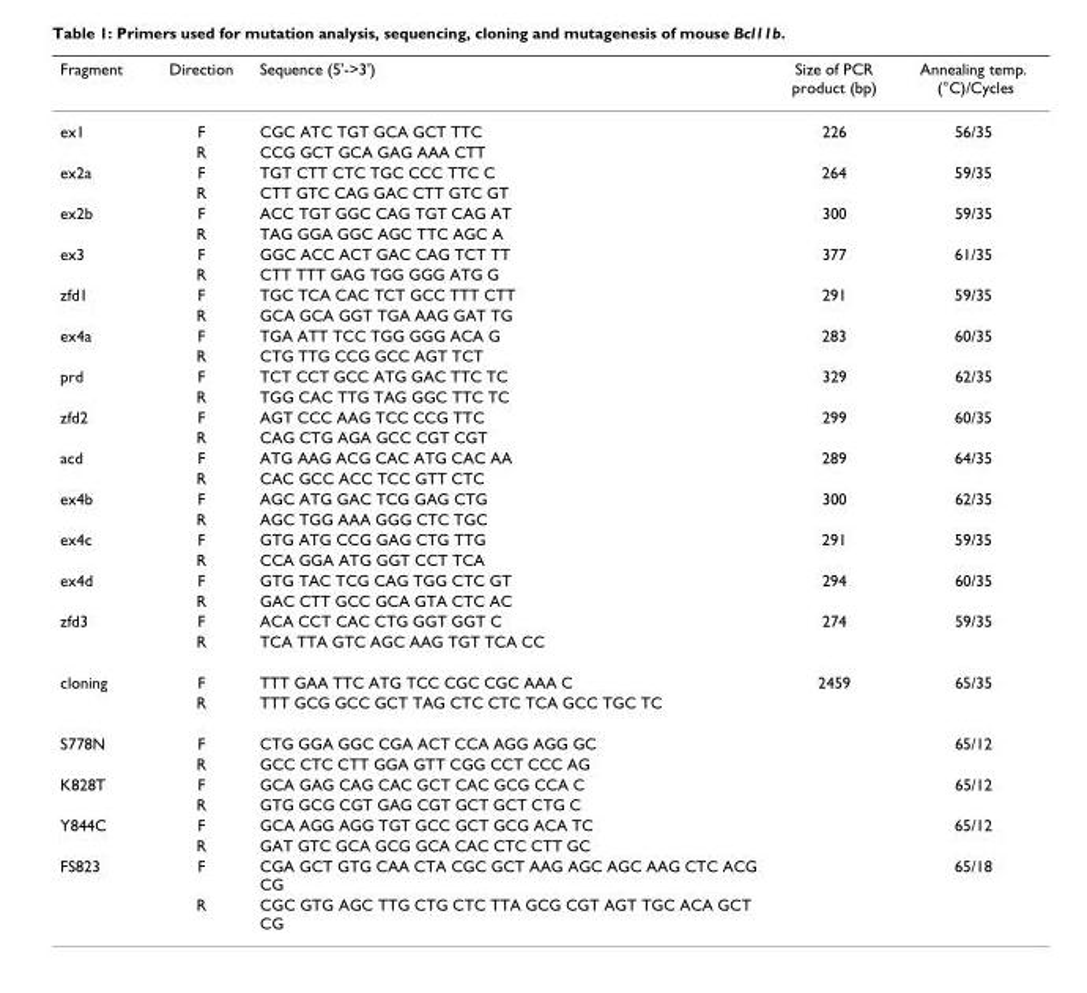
<table><thead><tr><td>Fragment</td><td>Direction</td><td>Sequence (5&#x27;-&gt;3&#x27;)</td><td>Size of PCR product (bp)</td><td>Annealing temp. (°C)/Cycles</td></tr></thead><tbody><tr><td rowspan="2">ex1</td><td>F</td><td>CGC ATC TGT GCA GCT TTC</td><td>226</td><td>56/35</td></tr><tr><td>R</td><td>CCG GCT GCA GAG AAA CTT</td><td></td><td></td></tr><tr><td rowspan="2">ex2a</td><td>F</td><td>TGT CTT CTC TGC CCC TTC C</td><td>264</td><td>59/35</td></tr><tr><td>R</td><td>CTT GTC CAG GAC CTT GTC GT</td><td></td><td></td></tr><tr><td rowspan="2">ex2b</td><td>F</td><td>ACC TGT GGC CAG TGT CAG AT</td><td>300</td><td>59/35</td></tr><tr><td>R</td><td>TAG GGA GGC AGC TTC AGC A</td><td></td><td></td></tr><tr><td rowspan="2">ex3</td><td>F</td><td>GGC ACC ACT GAC CAG TCT TT</td><td>377</td><td>61/35</td></tr><tr><td>R</td><td>CTT TTT GAG TGG GGG ATG G</td><td></td><td></td></tr><tr><td rowspan="2">zfd1</td><td>F</td><td>TGC TCA CAC TCT GCC TTT CTT</td><td>291</td><td>59/35</td></tr><tr><td>R</td><td>GCA GCA GGT TGA AAG GAT TG</td><td></td><td></td></tr><tr><td rowspan="2">ex4a</td><td>F</td><td>TGA ATT TCC TGG GGG ACA G</td><td>283</td><td>60/35</td></tr><tr><td>R</td><td>CTG TTG CCG GCC AGT TCT</td><td></td><td></td></tr><tr><td rowspan="2">prd</td><td>F</td><td>TCT CCT GCC ATG GAC TTC TC</td><td>329</td><td>62/35</td></tr><tr><td>R</td><td>TGG CAC TTG TAG GGC TTC TC</td><td></td><td></td></tr><tr><td rowspan="2">zfd2</td><td>F</td><td>AGT CCC AAG TCC CCG TTC</td><td>299</td><td>60/35</td></tr><tr><td>R</td><td>CAG CTG AGA GCC CGT CGT</td><td></td><td></td></tr><tr><td rowspan="2">acd</td><td>F</td><td>ATG AAG ACG CAC ATG CAC AA</td><td>289</td><td>64/35</td></tr><tr><td>R</td><td>CAC GCC ACC TCC GTT CTC</td><td></td><td></td></tr><tr><td rowspan="2">ex4b</td><td>F</td><td>AGC ATG GAC TCG GAG CTG</td><td>300</td><td>62/35</td></tr><tr><td>R</td><td>AGC TGG AAA GGG CTC TGC</td><td></td><td></td></tr><tr><td rowspan="2">ex4c</td><td>F</td><td>GTG ATG CCG GAG CTG TTG</td><td>291</td><td>59/35</td></tr><tr><td>R</td><td>CCA GGA ATG GGT CCT TCA</td><td></td><td></td></tr><tr><td rowspan="2">ex4d</td><td>F</td><td>GTG TAC TCG CAG TGG CTC GT</td><td>294</td><td>60/35</td></tr><tr><td>R</td><td>GAC CTT GCC GCA GTA CTC AC</td><td></td><td></td></tr><tr><td rowspan="2">zfd3</td><td>F</td><td>ACA CCT CAC CTG GGT GGT C</td><td>274</td><td>59/35</td></tr><tr><td>R</td><td>TCA TTA GTC AGC AAG TGT TCA CC</td><td></td><td></td></tr><tr><td rowspan="2">cloning</td><td>F</td><td>TTT GAA TTC ATG TCC CGC CGC AAA C</td><td>2459</td><td>65/35</td></tr><tr><td>R</td><td>TTT GCG GCC GCT TAG CTC CTC TCA GCC TGC TC</td><td></td><td></td></tr><tr><td rowspan="2">S778N</td><td>F</td><td>CTG GGA GGC CGA ACT CCA AGG AGG GC</td><td></td><td>65/12</td></tr><tr><td>R</td><td>GCC CTC CTT GGA GTT CGG CCT CCC AG</td><td></td><td></td></tr><tr><td rowspan="2">K828T</td><td>F</td><td>GCA GAG CAG CAC GCT CAC GCG CCA C</td><td></td><td>65/12</td></tr><tr><td>R</td><td>GTG GCG CGT GAG CGT GCT GCT CTG C</td><td></td><td></td></tr><tr><td rowspan="2">Y844C</td><td>F</td><td>GCA AGG AGG TGT GCC GCT GCG ACA TC</td><td></td><td>65/12</td></tr><tr><td>R</td><td>GAT GTC GCA GCG GCA CAC CTC CTT GC</td><td></td><td></td></tr><tr><td rowspan="2">FS823</td><td>F</td><td>CGA GCT GTG CAA CTA CGC GCT AAG AGC AGC AAG CTC ACG CG</td><td></td><td>65/18</td></tr><tr><td>R</td><td>CGC GTG AGC TTG CTG CTC TTA GCG CGT AGT TGC ACA GCT CG</td><td></td><td></td></tr></tbody></table>